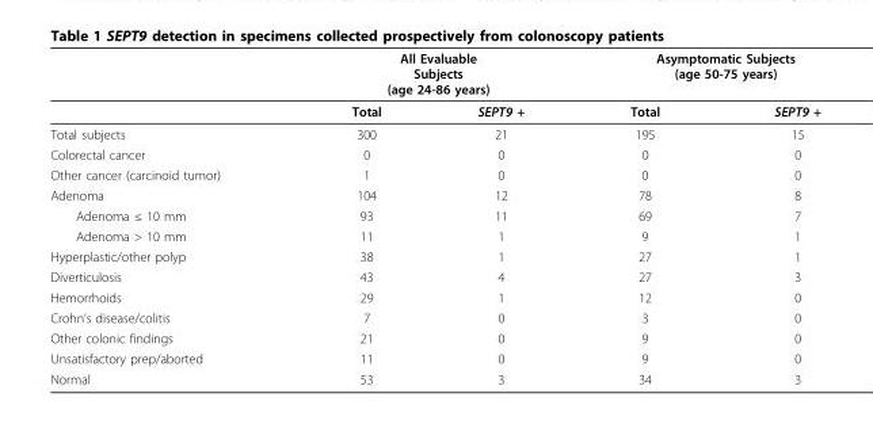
<table><thead><tr><td rowspan="2"></td><td colspan="2">All Evaluable Subjects (age 24-86 years)</td><td colspan="2">Asymptomatic Subjects (age 50-75 years)</td></tr><tr><td>Total</td><td>SEPT9 +</td><td>Total</td><td>SEPT9 +</td></tr></thead><tbody><tr><td>Total subjects</td><td>300</td><td>21</td><td>195</td><td>15</td></tr><tr><td>Colorectal cancer</td><td>0</td><td>0</td><td>0</td><td>0</td></tr><tr><td>Other cancer (carcinoid tumor)</td><td>1</td><td>0</td><td>0</td><td>0</td></tr><tr><td>Adenoma</td><td>104</td><td>12</td><td>78</td><td>8</td></tr><tr><td>Adenoma ≤ 10 mm</td><td>93</td><td>11</td><td>69</td><td>7</td></tr><tr><td>Adenoma &gt; 10 mm</td><td>11</td><td>1</td><td>9</td><td>1</td></tr><tr><td>Hyperplastic/other polyp</td><td>38</td><td>1</td><td>27</td><td>1</td></tr><tr><td>Diverticulosis</td><td>43</td><td>4</td><td>27</td><td>3</td></tr><tr><td>Hemorrhoids</td><td>29</td><td>1</td><td>12</td><td>0</td></tr><tr><td>Crohn’s disease/colitis</td><td>7</td><td>0</td><td>3</td><td>0</td></tr><tr><td>Other colonic findings</td><td>21</td><td>0</td><td>9</td><td>0</td></tr><tr><td>Unsatisfactory prep/aborted</td><td>11</td><td>0</td><td>9</td><td>0</td></tr><tr><td>Normal</td><td>53</td><td>3</td><td>34</td><td>3</td></tr></tbody></table>